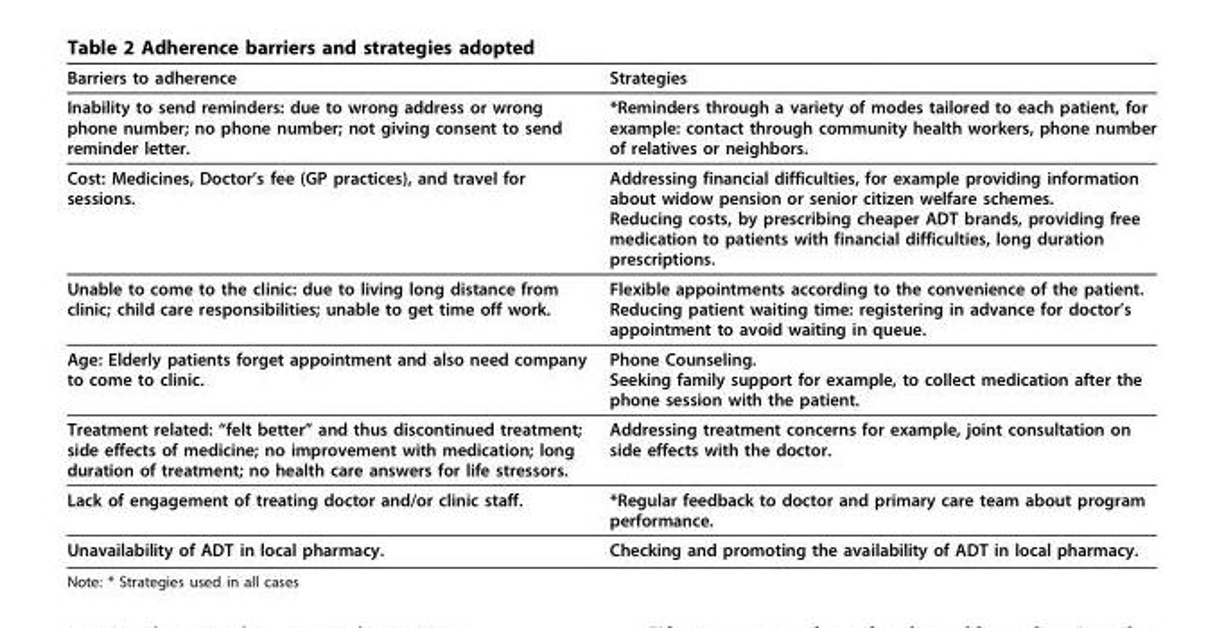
<table><thead><tr><td>Barriers to adherence</td><td>Strategies</td></tr></thead><tbody><tr><td>Inability to send reminders: due to wrong address or wrong phone number; no phone number; not giving consent to send reminder letter.</td><td>*Reminders through a variety of modes tailored to each patient, for example: contact through community health workers, phone number of relatives or neighbors.</td></tr><tr><td>Cost: Medicines, Doctor’s fee (GP practices), and travel for sessions.</td><td>Addressing financial difficulties, for example providing information about widow pension or senior citizen welfare schemes. Reducing costs, by prescribing cheaper ADT brands, providing free medication to patients with financial difficulties, long duration prescriptions.</td></tr><tr><td>Unable to come to the clinic: due to living long distance from clinic; child care responsibilities; unable to get time off work.</td><td>Flexible appointments according to the convenience of the patient. Reducing patient waiting time: registering in advance for doctor’s appointment to avoid waiting in queue.</td></tr><tr><td>Age: Elderly patients forget appointment and also need company to come to clinic.</td><td>Phone Counseling. Seeking family support for example, to collect medication after the phone session with the patient.</td></tr><tr><td>Treatment related: “felt better” and thus discontinued treatment; side effects of medicine; no improvement with medication; long duration of treatment; no health care answers for life stressors.</td><td>Addressing treatment concerns for example, joint consultation on side effects with the doctor.</td></tr><tr><td>Lack of engagement of treating doctor and/or clinic staff.</td><td>*Regular feedback to doctor and primary care team about program performance.</td></tr><tr><td>Unavailability of ADT in local pharmacy.</td><td>Checking and promoting the availability of ADT in local pharmacy.</td></tr></tbody></table>